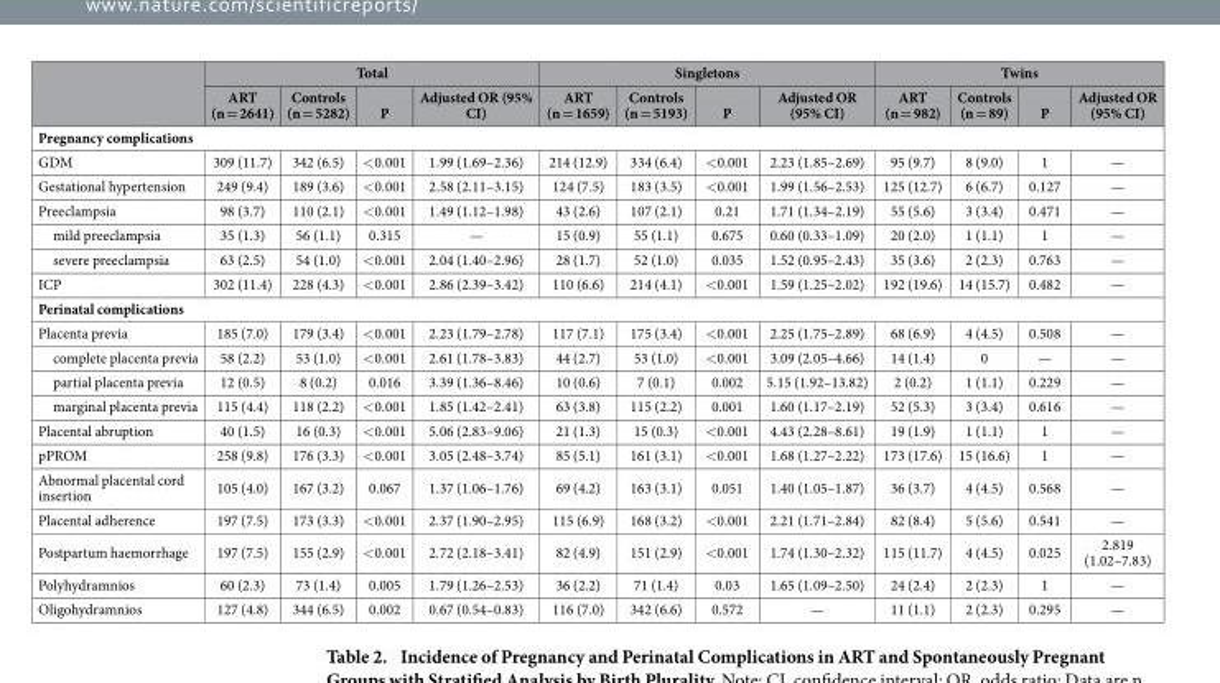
<table><thead><tr><td rowspan="2"></td><td colspan="4">Total</td><td colspan="4">Singletons</td><td colspan="4">Twins</td></tr><tr><td>ART (n = 2641)</td><td>Controls (n = 5282)</td><td>P</td><td>Adjusted OR (95% CI)</td><td>ART (n = 1659)</td><td>Controls (n = 5193)</td><td>P</td><td>Adjusted OR (95% CI)</td><td>ART (n = 982)</td><td>Controls (n = 89)</td><td>P</td><td>Adjusted OR (95% CI)</td></tr></thead><tbody><tr><td colspan="13">Pregnancy complications</td></tr><tr><td>GDM</td><td>309 (11.7)</td><td>342 (6.5)</td><td>&lt; 0.001</td><td>1.99 (1.69–2.36)</td><td>214 (12.9)</td><td>334 (6.4)</td><td>&lt; 0.001</td><td>2.23 (1.85–2.69)</td><td>95 (9.7)</td><td>8 (9.0)</td><td>1</td><td>—</td></tr><tr><td>Gestational hypertension</td><td>249 (9.4)</td><td>189 (3.6)</td><td>&lt; 0.001</td><td>2.58 (2.11–3.15)</td><td>124 (7.5)</td><td>183 (3.5)</td><td>&lt; 0.001</td><td>1.99 (1.56–2.53)</td><td>125 (12.7)</td><td>6 (6.7)</td><td>0.127</td><td>—</td></tr><tr><td>Preeclampsia</td><td>98 (3.7)</td><td>110 (2.1)</td><td>&lt; 0.001</td><td>1.49 (1.12–1.98)</td><td>43 (2.6)</td><td>107 (2.1)</td><td>0.21</td><td>1.71 (1.34–2.19)</td><td>55 (5.6)</td><td>3 (3.4)</td><td>0.471</td><td>—</td></tr><tr><td>mild preeclampsia</td><td>35 (1.3)</td><td>56 (1.1)</td><td>0.315</td><td>—</td><td>15 (0.9)</td><td>55 (1.1)</td><td>0.675</td><td>0.60 (0.33–1.09)</td><td>20 (2.0)</td><td>1 (1.1)</td><td>1</td><td>—</td></tr><tr><td>severe preeclampsia</td><td>63 (2.5)</td><td>54 (1.0)</td><td>&lt; 0.001</td><td>2.04 (1.40–2.96)</td><td>28 (1.7)</td><td>52 (1.0)</td><td>0.035</td><td>1.52 (0.95–2.43)</td><td>35 (3.6)</td><td>2 (2.3)</td><td>0.763</td><td>—</td></tr><tr><td>ICP</td><td>302 (11.4)</td><td>228 (4.3)</td><td>&lt; 0.001</td><td>2.86 (2.39–3.42)</td><td>110 (6.6)</td><td>214 (4.1)</td><td>&lt; 0.001</td><td>1.59 (1.25–2.02)</td><td>192 (19.6)</td><td>14 (15.7)</td><td>0.482</td><td>—</td></tr><tr><td colspan="13">Perinatal complications</td></tr><tr><td>Placenta previa</td><td>185 (7.0)</td><td>179 (3.4)</td><td>&lt; 0.001</td><td>2.23 (1.79–2.78)</td><td>117 (7.1)</td><td>175 (3.4)</td><td>&lt; 0.001</td><td>2.25 (1.75–2.89)</td><td>68 (6.9)</td><td>4 (4.5)</td><td>0.508</td><td>—</td></tr><tr><td>complete placenta previa</td><td>58 (2.2)</td><td>53 (1.0)</td><td>&lt; 0.001</td><td>2.61 (1.78–3.83)</td><td>44 (2.7)</td><td>53 (1.0)</td><td>&lt; 0.001</td><td>3.09 (2.05–4.66)</td><td>14 (1.4)</td><td>0</td><td>—</td><td>—</td></tr><tr><td>partial placenta previa</td><td>12 (0.5)</td><td>8 (0.2)</td><td>0.016</td><td>3.39 (1.36–8.46)</td><td>10 (0.6)</td><td>7 (0.1)</td><td>0.002</td><td>5.15 (1.92–13.82)</td><td>2 (0.2)</td><td>1 (1.1)</td><td>0.229</td><td>—</td></tr><tr><td>marginal placenta previa</td><td>115 (4.4)</td><td>118 (2.2)</td><td>&lt; 0.001</td><td>1.85 (1.42–2.41)</td><td>63 (3.8)</td><td>115 (2.2)</td><td>0.001</td><td>1.60 (1.17–2.19)</td><td>52 (5.3)</td><td>3 (3.4)</td><td>0.616</td><td>—</td></tr><tr><td>Placental abruption</td><td>40 (1.5)</td><td>16 (0.3)</td><td>&lt; 0.001</td><td>5.06 (2.83–9.06)</td><td>21 (1.3)</td><td>15 (0.3)</td><td>&lt; 0.001</td><td>4.43 (2.28–8.61)</td><td>19 (1.9)</td><td>1 (1.1)</td><td>1</td><td>—</td></tr><tr><td>pPROM</td><td>258 (9.8)</td><td>176 (3.3)</td><td>&lt; 0.001</td><td>3.05 (2.48–3.74)</td><td>85 (5.1)</td><td>161 (3.1)</td><td>&lt; 0.001</td><td>1.68 (1.27–2.22)</td><td>173 (17.6)</td><td>15 (16.6)</td><td>1</td><td>—</td></tr><tr><td>Abnormal placental cord insertion</td><td>105 (4.0)</td><td>167 (3.2)</td><td>0.067</td><td>1.37 (1.06–1.76)</td><td>69 (4.2)</td><td>163 (3.1)</td><td>0.051</td><td>1.40 (1.05–1.87)</td><td>36 (3.7)</td><td>4 (4.5)</td><td>0.568</td><td>—</td></tr><tr><td>Placental adherence</td><td>197 (7.5)</td><td>173 (3.3)</td><td>&lt; 0.001</td><td>2.37 (1.90–2.95)</td><td>115 (6.9)</td><td>168 (3.2)</td><td>&lt; 0.001</td><td>2.21 (1.71–2.84)</td><td>82 (8.4)</td><td>5 (5.6)</td><td>0.541</td><td>—</td></tr><tr><td>Postpartum haemorrhage</td><td>197 (7.5)</td><td>155 (2.9)</td><td>&lt; 0.001</td><td>2.72 (2.18–3.41)</td><td>82 (4.9)</td><td>151 (2.9)</td><td>&lt; 0.001</td><td>1.74 (1.30–2.32)</td><td>115 (11.7)</td><td>4 (4.5)</td><td>0.025</td><td>2.819 (1.02–7.83)</td></tr><tr><td>Polyhydramnios</td><td>60 (2.3)</td><td>73 (1.4)</td><td>0.005</td><td>1.79 (1.26–2.53)</td><td>36 (2.2)</td><td>71 (1.4)</td><td>0.03</td><td>1.65 (1.09–2.50)</td><td>24 (2.4)</td><td>2 (2.3)</td><td>1</td><td>—</td></tr><tr><td>Oligohydramnios</td><td>127 (4.8)</td><td>344 (6.5)</td><td>0.002</td><td>0.67 (0.54–0.83)</td><td>116 (7.0)</td><td>342 (6.6)</td><td>0.572</td><td>—</td><td>11 (1.1)</td><td>2 (2.3)</td><td>0.295</td><td>—</td></tr></tbody></table>